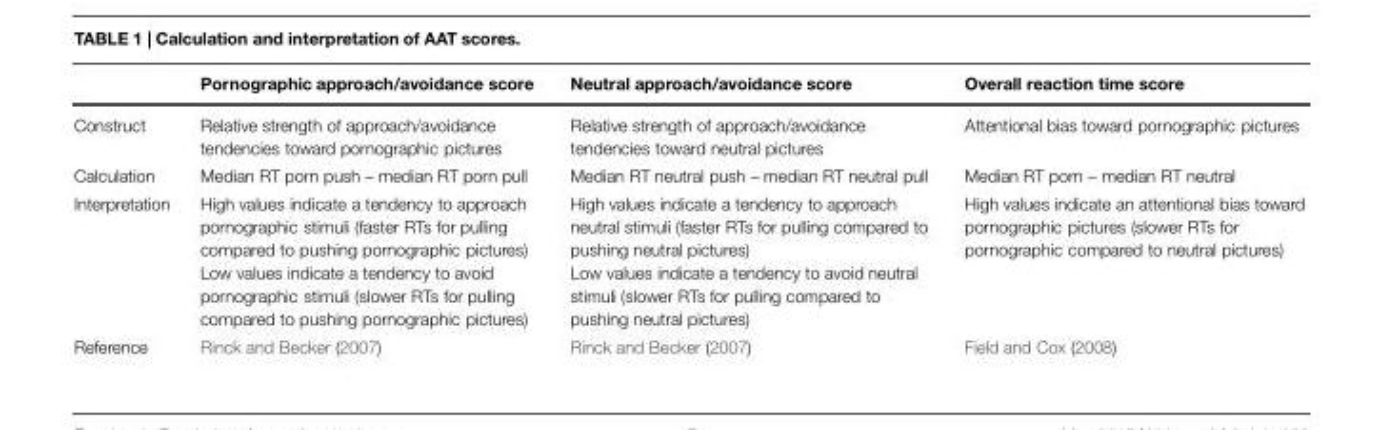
<table><thead><tr><td></td><td>Pornographic approach/avoidance score</td><td>Neutral approach/avoidance score</td><td>Overall reaction time score</td></tr></thead><tbody><tr><td>Construct</td><td>Relative strength of approach/avoidance tendencies toward pornographic pictures</td><td>Relative strength of approach/avoidance tendencies toward neutral pictures</td><td>Attentional bias toward pornographic pictures</td></tr><tr><td>Calculation</td><td>Median RT porn push – median RT porn pull</td><td>Median RT neutral push – median RT neutral pull</td><td>Median RT porn – median RT neutral</td></tr><tr><td>Interpretation</td><td>High values indicate a tendency to approach pornographic stimuli (faster RTs for pulling compared to pushing pornographic pictures) Low values indicate a tendency to avoid pornographic stimuli (slower RTs for pulling compared to pushing pornographic pictures)</td><td>High values indicate a tendency to approach neutral stimuli (faster RTs for pulling compared to pushing neutral pictures) Low values indicate a tendency to avoid neutral stimuli (slower RTs for pulling compared to pushing neutral pictures)</td><td>High values indicate an attentional bias toward pornographic pictures (slower RTs for pornographic compared to neutral pictures)</td></tr><tr><td>Reference</td><td>Rinck and Becker (2007)</td><td>Rinck and Becker (2007)</td><td>Field and Cox (2008)</td></tr></tbody></table>